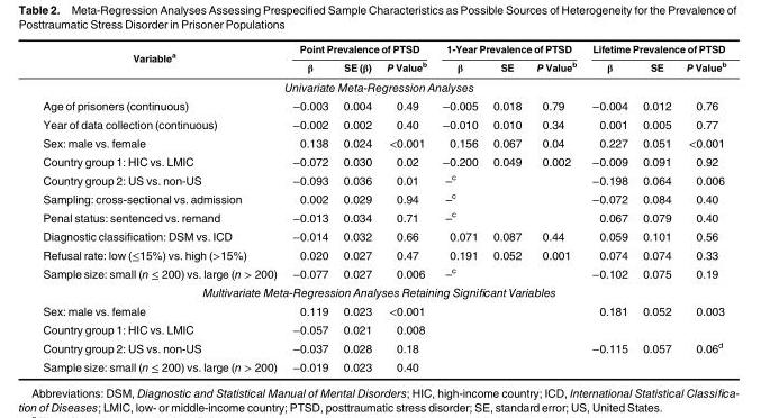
<table><thead><tr><td rowspan="2">Variable<sup>a</sup></td><td colspan="3">Point Prevalence of PTSD</td><td colspan="3">1-Year Prevalence of PTSD</td><td colspan="3">Lifetime Prevalence of PTSD</td></tr><tr><td>β</td><td>SE (β)</td><td>P Value<sup>b</sup></td><td>β</td><td>SE</td><td>P Value<sup>b</sup></td><td>β</td><td>SE</td><td>P Value<sup>b</sup></td></tr></thead><tbody><tr><td colspan="10">Univariate Meta-Regression Analyses</td></tr><tr><td>Age of prisoners (continuous)</td><td>−0.003</td><td>0.004</td><td>0.49</td><td>−0.005</td><td>0.018</td><td>0.79</td><td>−0.004</td><td>0.012</td><td>0.76</td></tr><tr><td>Year of data collection (continuous)</td><td>−0.002</td><td>0.002</td><td>0.40</td><td>−0.010</td><td>0.010</td><td>0.34</td><td>0.001</td><td>0.005</td><td>0.77</td></tr><tr><td>Sex: male vs. female</td><td>0.138</td><td>0.024</td><td>&lt;0.001</td><td>0.156</td><td>0.067</td><td>0.04</td><td>0.227</td><td>0.051</td><td>&lt;0.001</td></tr><tr><td>Country group 1: HIC vs. LMIC</td><td>−0.072</td><td>0.030</td><td>0.02</td><td>−0.200</td><td>0.049</td><td>0.002</td><td>−0.009</td><td>0.091</td><td>0.92</td></tr><tr><td>Country group 2: US vs. non-US</td><td>−0.093</td><td>0.036</td><td>0.01</td><td>–<sup>c</sup></td><td></td><td></td><td>−0.198</td><td>0.064</td><td>0.006</td></tr><tr><td>Sampling: cross-sectional vs. admission</td><td>0.002</td><td>0.029</td><td>0.94</td><td>–<sup>c</sup></td><td></td><td></td><td>−0.072</td><td>0.084</td><td>0.40</td></tr><tr><td>Penal status: sentenced vs. remand</td><td>−0.013</td><td>0.034</td><td>0.71</td><td>–<sup>c</sup></td><td></td><td></td><td>0.067</td><td>0.079</td><td>0.40</td></tr><tr><td>Diagnostic classification: DSM vs. ICD</td><td>−0.014</td><td>0.032</td><td>0.66</td><td>0.071</td><td>0.087</td><td>0.44</td><td>0.059</td><td>0.101</td><td>0.56</td></tr><tr><td>Refusal rate: low (≤15%) vs. high (&gt;15%)</td><td>0.020</td><td>0.027</td><td>0.47</td><td>0.191</td><td>0.052</td><td>0.001</td><td>0.074</td><td>0.074</td><td>0.33</td></tr><tr><td>Sample size: small (n ≤ 200) vs. large (n &gt; 200)</td><td>−0.077</td><td>0.027</td><td>0.006</td><td>–<sup>c</sup></td><td></td><td></td><td>−0.102</td><td>0.075</td><td>0.19</td></tr><tr><td colspan="10">Multivariate Meta-Regression Analyses Retaining Significant Variables</td></tr><tr><td>Sex: male vs. female</td><td>0.119</td><td>0.023</td><td>&lt;0.001</td><td></td><td></td><td></td><td>0.181</td><td>0.052</td><td>0.003</td></tr><tr><td>Country group 1: HIC vs. LMIC</td><td>−0.057</td><td>0.021</td><td>0.008</td><td></td><td></td><td></td><td></td><td></td><td></td></tr><tr><td>Country group 2: US vs. non-US</td><td>−0.037</td><td>0.028</td><td>0.18</td><td></td><td></td><td></td><td>−0.115</td><td>0.057</td><td>0.06<sup>d</sup></td></tr><tr><td>Sample size: small (n ≤ 200) vs. large (n &gt; 200)</td><td>−0.019</td><td>0.023</td><td>0.40</td><td></td><td></td><td></td><td></td><td></td><td></td></tr></tbody></table>